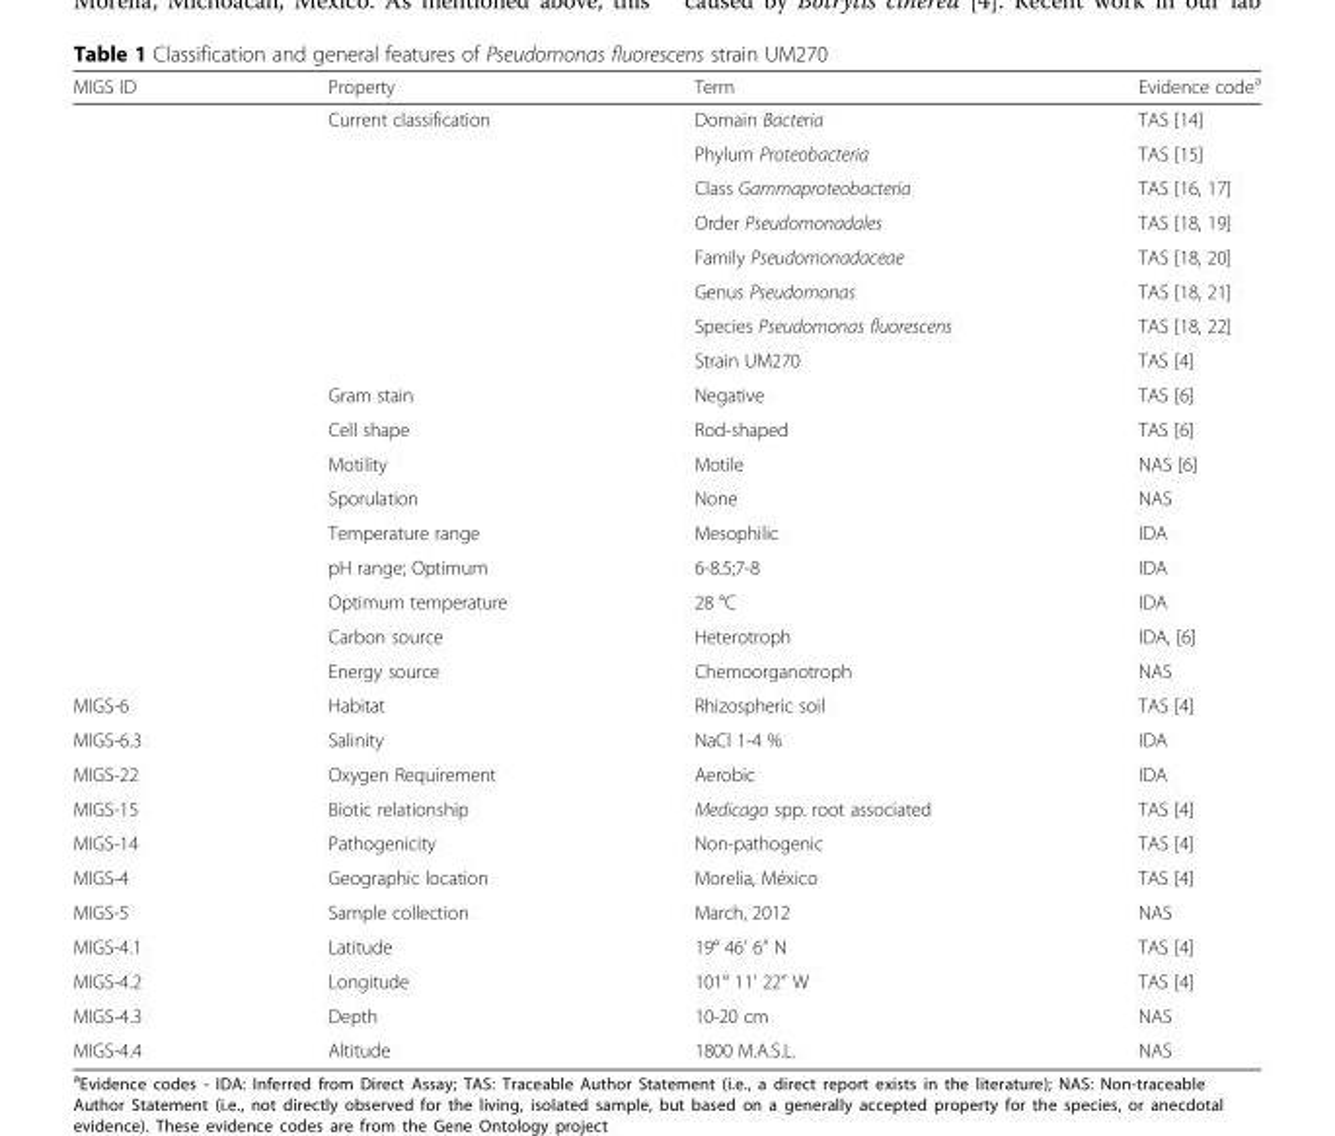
<table><thead><tr><td>MIGS ID</td><td>Property</td><td>Term</td><td>Evidence code<sup>a</sup></td></tr></thead><tbody><tr><td rowspan="8"></td><td rowspan="8">Current classification</td><td>Domain Bacteria</td><td>TAS [14]</td></tr><tr><td>Phylum Proteobacteria</td><td>TAS [15]</td></tr><tr><td>Class Gammaproteobacteria</td><td>TAS [16, 17]</td></tr><tr><td>Order Pseudomonadales</td><td>TAS [18, 19]</td></tr><tr><td>Family Pseudomonadaceae</td><td>TAS [18, 20]</td></tr><tr><td>Genus Pseudomonas</td><td>TAS [18, 21]</td></tr><tr><td>Species Pseudomonas fluorescens</td><td>TAS [18, 22]</td></tr><tr><td>Strain UM270</td><td>TAS [4]</td></tr><tr><td></td><td>Gram stain</td><td>Negative</td><td>TAS [6]</td></tr><tr><td></td><td>Cell shape</td><td>Rod-shaped</td><td>TAS [6]</td></tr><tr><td></td><td>Motility</td><td>Motile</td><td>NAS [6]</td></tr><tr><td></td><td>Sporulation</td><td>None</td><td>NAS</td></tr><tr><td></td><td>Temperature range</td><td>Mesophilic</td><td>IDA</td></tr><tr><td></td><td>pH range; Optimum</td><td>6-8.5;7-8</td><td>IDA</td></tr><tr><td></td><td>Optimum temperature</td><td>28 °C</td><td>IDA</td></tr><tr><td></td><td>Carbon source</td><td>Heterotroph</td><td>IDA, [6]</td></tr><tr><td></td><td>Energy source</td><td>Chemoorganotroph</td><td>NAS</td></tr><tr><td>MIGS-6</td><td>Habitat</td><td>Rhizospheric soil</td><td>TAS [4]</td></tr><tr><td>MIGS-6.3</td><td>Salinity</td><td>NaCl 1-4 %</td><td>IDA</td></tr><tr><td>MIGS-22</td><td>Oxygen Requirement</td><td>Aerobic</td><td>IDA</td></tr><tr><td>MIGS-15</td><td>Biotic relationship</td><td>Medicago spp. root associated</td><td>TAS [4]</td></tr><tr><td>MIGS-14</td><td>Pathogenicity</td><td>Non-pathogenic</td><td>TAS [4]</td></tr><tr><td>MIGS-4</td><td>Geographic location</td><td>Morelia, México</td><td>TAS [4]</td></tr><tr><td>MIGS-5</td><td>Sample collection</td><td>March, 2012</td><td>NAS</td></tr><tr><td>MIGS-4.1</td><td>Latitude</td><td>19° 46’ 6” N</td><td>TAS [4]</td></tr><tr><td>MIGS-4.2</td><td>Longitude</td><td>101° 11’ 22” W</td><td>TAS [4]</td></tr><tr><td>MIGS-4.3</td><td>Depth</td><td>10-20 cm</td><td>NAS</td></tr><tr><td>MIGS-4.4</td><td>Altitude</td><td>1800 M.A.S.L.</td><td>NAS</td></tr></tbody></table>